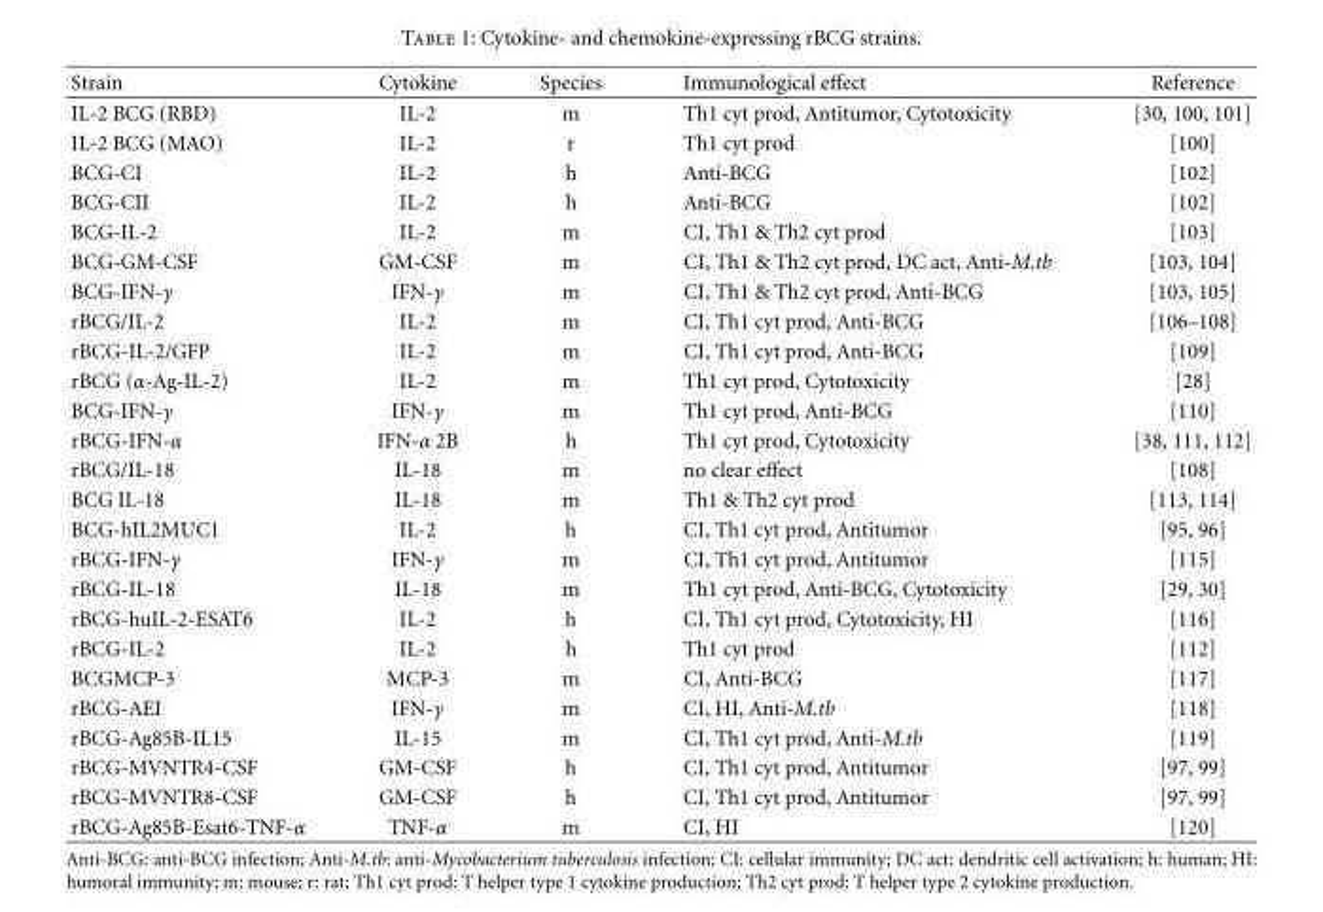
<table><thead><tr><td>Strain</td><td>Cytokine</td><td>Species</td><td>Immunological effect</td><td>Reference</td></tr></thead><tbody><tr><td>IL-2 BCG (RBD)</td><td>IL-2</td><td>m</td><td>Th1 cyt prod, Antitumor, Cytotoxicity</td><td>[30, 100, 101]</td></tr><tr><td>IL-2 BCG (MAO)</td><td>IL-2</td><td>r</td><td>Th1 cyt prod</td><td>[100]</td></tr><tr><td>BCG-CI</td><td>IL-2</td><td>h</td><td>Anti-BCG</td><td>[102]</td></tr><tr><td>BCG-CII</td><td>IL-2</td><td>h</td><td>Anti-BCG</td><td>[102]</td></tr><tr><td>BCG-IL-2</td><td>IL-2</td><td>m</td><td>CI, Th1 &amp; Th2 cyt prod</td><td>[103]</td></tr><tr><td>BCG-GM-CSF</td><td>GM-CSF</td><td>m</td><td>CI, Th1 &amp; Th2 cyt prod, DC act, Anti-M.tb</td><td>[103, 104]</td></tr><tr><td>BCG-IFN-γ</td><td>IFN-γ</td><td>m</td><td>CI, Th1 &amp; Th2 cyt prod, Anti-BCG</td><td>[103, 105]</td></tr><tr><td>rBCG/IL-2</td><td>IL-2</td><td>m</td><td>CI, Th1 cyt prod, Anti-BCG</td><td>[106–108]</td></tr><tr><td>rBCG-IL-2/GFP</td><td>IL-2</td><td>m</td><td>CI, Th1 cyt prod, Anti-BCG</td><td>[109]</td></tr><tr><td>rBCG (α-Ag-IL-2)</td><td>IL-2</td><td>m</td><td>Th1 cyt prod, Cytotoxicity</td><td>[28]</td></tr><tr><td>BCG-IFN-γ</td><td>IFN-γ</td><td>m</td><td>Th1 cyt prod, Anti-BCG</td><td>[110]</td></tr><tr><td>rBCG-IFN-α</td><td>IFN-α 2B</td><td>h</td><td>Th1 cyt prod, Cytotoxicity</td><td>[38, 111, 112]</td></tr><tr><td>rBCG/IL-18</td><td>IL-18</td><td>m</td><td>no clear effect</td><td>[108]</td></tr><tr><td>BCG IL-18</td><td>IL-18</td><td>m</td><td>Th1 &amp; Th2 cyt prod</td><td>[113, 114]</td></tr><tr><td>BCG-hIL2MUC1</td><td>IL-2</td><td>h</td><td>CI, Th1 cyt prod, Antitumor</td><td>[95, 96]</td></tr><tr><td>rBCG-IFN-γ</td><td>IFN-γ</td><td>m</td><td>CI, Th1 cyt prod, Antitumor</td><td>[115]</td></tr><tr><td>rBCG-IL-18</td><td>IL-18</td><td>m</td><td>Th1 cyt prod, Anti-BCG, Cytotoxicity</td><td>[29, 30]</td></tr><tr><td>rBCG-huIL-2-ESAT6</td><td>IL-2</td><td>h</td><td>CI, Th1 cyt prod, Cytotoxicity, HI</td><td>[116]</td></tr><tr><td>rBCG-IL-2</td><td>IL-2</td><td>h</td><td>Th1 cyt prod</td><td>[112]</td></tr><tr><td>BCGMCP-3</td><td>MCP-3</td><td>m</td><td>CI, Anti-BCG</td><td>[117]</td></tr><tr><td>rBCG-AEI</td><td>IFN-γ</td><td>m</td><td>CI, HI, Anti-M.tb</td><td>[118]</td></tr><tr><td>rBCG-Ag85B-IL15</td><td>IL-15</td><td>m</td><td>CI, Th1 cyt prod, Anti-M.tb</td><td>[119]</td></tr><tr><td>rBCG-MVNTR4-CSF</td><td>GM-CSF</td><td>h</td><td>CI, Th1 cyt prod, Antitumor</td><td>[97, 99]</td></tr><tr><td>rBCG-MVNTR8-CSF</td><td>GM-CSF</td><td>h</td><td>CI, Th1 cyt prod, Antitumor</td><td>[97, 99]</td></tr><tr><td>rBCG-Ag85B-Esat6-TNF-α</td><td>TNF-α</td><td>m</td><td>CI, HI</td><td>[120]</td></tr></tbody></table>